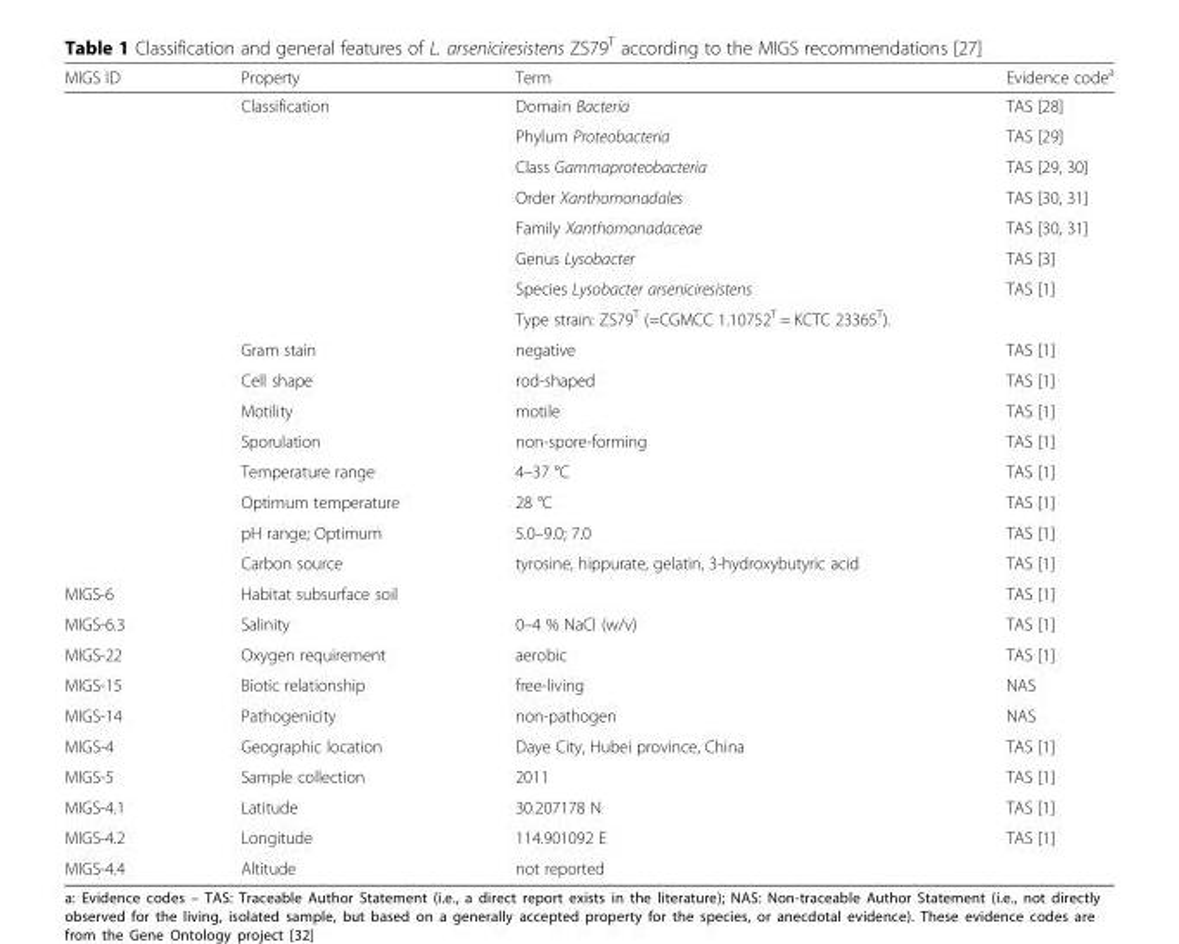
<table><thead><tr><td>MIGS ID</td><td>Property</td><td>Term</td><td>Evidence code<sup>a</sup></td></tr></thead><tbody><tr><td rowspan="16"></td><td rowspan="8">Classification</td><td>Domain Bacteria</td><td>TAS [28]</td></tr><tr><td>Phylum Proteobacteria</td><td>TAS [29]</td></tr><tr><td>Class Gammaproteobacteria</td><td>TAS [29, 30]</td></tr><tr><td>Order Xanthomonadales</td><td>TAS [30, 31]</td></tr><tr><td>Family Xanthomonadaceae</td><td>TAS [30, 31]</td></tr><tr><td>Genus Lysobacter</td><td>TAS [3]</td></tr><tr><td>Species Lysobacter arseniciresistens</td><td rowspan="2">TAS [1]</td></tr><tr><td>Type strain: ZS79<sup>T</sup> (=CGMCC 1.10752<sup>T</sup> = KCTC 23365<sup>T</sup>).</td></tr><tr><td>Gram stain</td><td>negative</td><td>TAS [1]</td></tr><tr><td>Cell shape</td><td>rod-shaped</td><td>TAS [1]</td></tr><tr><td>Motility</td><td>motile</td><td>TAS [1]</td></tr><tr><td>Sporulation</td><td>non-spore-forming</td><td>TAS [1]</td></tr><tr><td>Temperature range</td><td>4–37 °C</td><td>TAS [1]</td></tr><tr><td>Optimum temperature</td><td>28 °C</td><td>TAS [1]</td></tr><tr><td>pH range; Optimum</td><td>5.0–9.0; 7.0</td><td>TAS [1]</td></tr><tr><td>Carbon source</td><td>tyrosine, hippurate, gelatin, 3-hydroxybutyric acid</td><td>TAS [1]</td></tr><tr><td>MIGS-6</td><td colspan="2">Habitat subsurface soil</td><td>TAS [1]</td></tr><tr><td>MIGS-6.3</td><td>Salinity</td><td>0–4 % NaCl (w/v)</td><td>TAS [1]</td></tr><tr><td>MIGS-22</td><td>Oxygen requirement</td><td>aerobic</td><td>TAS [1]</td></tr><tr><td>MIGS-15</td><td>Biotic relationship</td><td>free-living</td><td>NAS</td></tr><tr><td>MIGS-14</td><td>Pathogenicity</td><td>non-pathogen</td><td>NAS</td></tr><tr><td>MIGS-4</td><td>Geographic location</td><td>Daye City, Hubei province, China</td><td>TAS [1]</td></tr><tr><td>MIGS-5</td><td>Sample collection</td><td>2011</td><td>TAS [1]</td></tr><tr><td>MIGS-4.1</td><td>Latitude</td><td>30.207178 N</td><td>TAS [1]</td></tr><tr><td>MIGS-4.2</td><td>Longitude</td><td>114.901092 E</td><td>TAS [1]</td></tr><tr><td>MIGS-4.4</td><td>Altitude</td><td>not reported</td><td></td></tr></tbody></table>